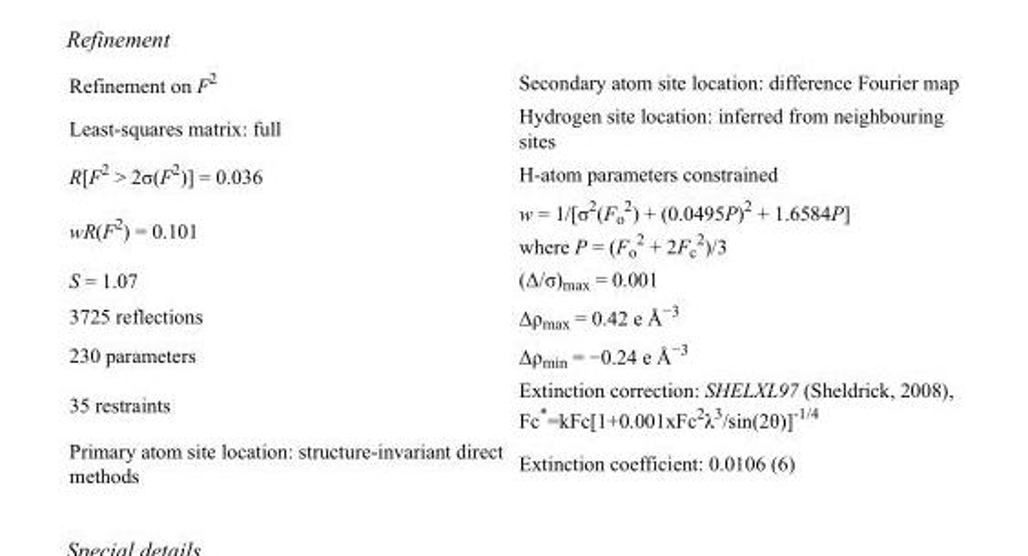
<table><tbody><tr><td>Refinement on F<sup>2</sup></td><td>Secondary atom site location: difference Fourier map</td></tr><tr><td>Least-squares matrix: full</td><td>Hydrogen site location: inferred from neighbouring sites</td></tr><tr><td>R[F<sup>2</sup> &gt; 2σ(F<sup>2</sup>)] = 0.036</td><td>H-atom parameters constrained</td></tr><tr><td>wR(F<sup>2</sup>) = 0.101</td><td>w = 1/[σ<sup>2</sup>(F<sub>o</sub> <sup>2</sup>) + (0.0495P)<sup>2</sup> + 1.6584P] where P = (F<sub>o</sub> <sup>2</sup> + 2F<sub>c</sub> <sup>2</sup>)/3</td></tr><tr><td>S = 1.07</td><td>(Δ/σ)<sub>max</sub> = 0.001</td></tr><tr><td>3725 reflections</td><td>Δρ<sub>max</sub> = 0.42 e Å<sup>−3</sup></td></tr><tr><td>230 parameters</td><td>Δρ<sub>min</sub> = −0.24 e Å<sup>−3</sup></td></tr><tr><td>35 restraints</td><td>Extinction correction: SHELXL97 (Sheldrick, 2008), Fc*=kFc[1+0.001xFc<sup>2</sup>λ<sup>3</sup>/sin(2θ)]<sup>-1/4</sup></td></tr><tr><td>Primary atom site location: structure-invariant direct methods</td><td>Extinction coefficient: 0.0106 (6)</td></tr></tbody></table>